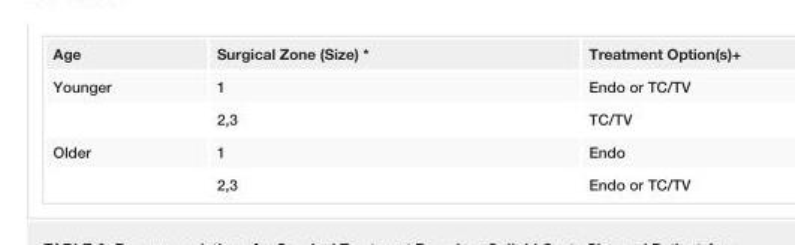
<table><tbody><tr><td>Age</td><td>Surgical Zone (Size) *</td><td>Treatment Option(s)+</td></tr><tr><td rowspan="2">Younger</td><td>1</td><td>Endo or TC/TV</td></tr><tr><td>2,3</td><td>TC/TV</td></tr><tr><td rowspan="2">Older</td><td>1</td><td>Endo</td></tr><tr><td>2,3</td><td>Endo or TC/TV</td></tr></tbody></table>